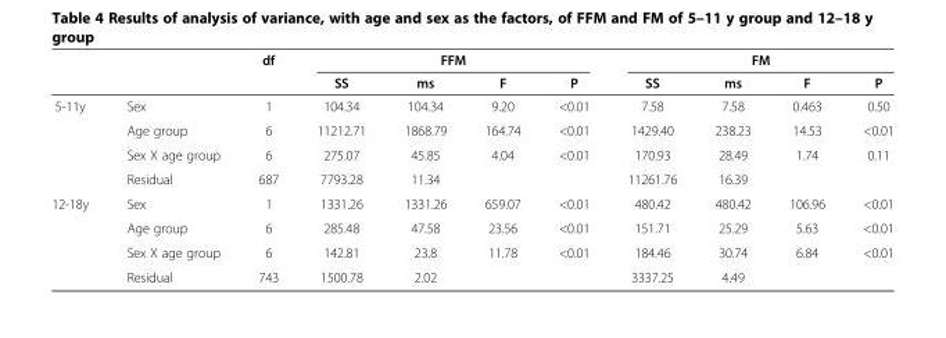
<table><thead><tr><td rowspan="2"></td><td rowspan="2"></td><td rowspan="2">df</td><td colspan="4">FFM</td><td colspan="4">FM</td></tr><tr><td>SS</td><td>ms</td><td>F</td><td>P</td><td>SS</td><td>ms</td><td>F</td><td>P</td></tr></thead><tbody><tr><td rowspan="4">5-11y</td><td>Sex</td><td>1</td><td>104.34</td><td>104.34</td><td>9.20</td><td>&lt;0.01</td><td>7.58</td><td>7.58</td><td>0.463</td><td>0.50</td></tr><tr><td>Age group</td><td>6</td><td>11212.71</td><td>1868.79</td><td>164.74</td><td>&lt;0.01</td><td>1429.40</td><td>238.23</td><td>14.53</td><td>&lt;0.01</td></tr><tr><td>Sex X age group</td><td>6</td><td>275.07</td><td>45.85</td><td>4.04</td><td>&lt;0.01</td><td>170.93</td><td>28.49</td><td>1.74</td><td>0.11</td></tr><tr><td>Residual</td><td>687</td><td>7793.28</td><td>11.34</td><td></td><td></td><td>11261.76</td><td>16.39</td><td></td><td></td></tr><tr><td rowspan="4">12-18y</td><td>Sex</td><td>1</td><td>1331.26</td><td>1331.26</td><td>659.07</td><td>&lt;0.01</td><td>480.42</td><td>480.42</td><td>106.96</td><td>&lt;0.01</td></tr><tr><td>Age group</td><td>6</td><td>285.48</td><td>47.58</td><td>23.56</td><td>&lt;0.01</td><td>151.71</td><td>25.29</td><td>5.63</td><td>&lt;0.01</td></tr><tr><td>Sex X age group</td><td>6</td><td>142.81</td><td>23.8</td><td>11.78</td><td>&lt;0.01</td><td>184.46</td><td>30.74</td><td>6.84</td><td>&lt;0.01</td></tr><tr><td>Residual</td><td>743</td><td>1500.78</td><td>2.02</td><td></td><td></td><td>3337.25</td><td>4.49</td><td></td><td></td></tr></tbody></table>